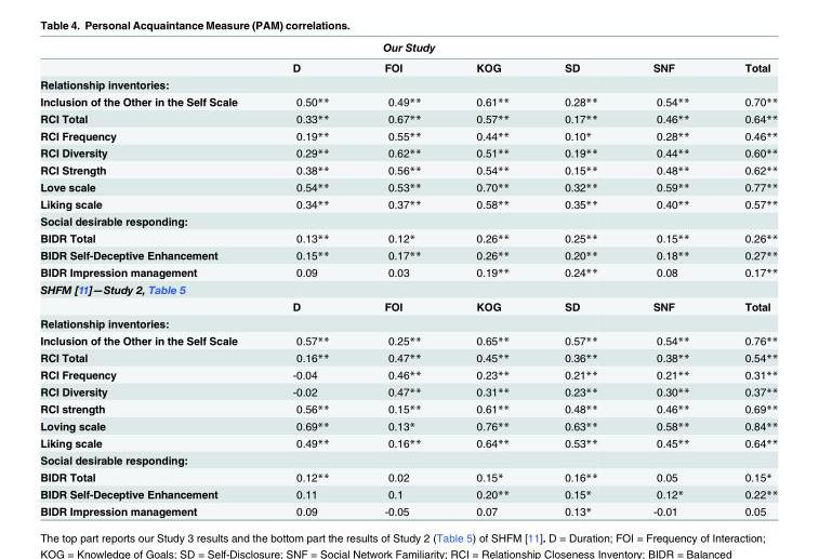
<table><thead><tr><td colspan="7">Our Study</td></tr><tr><td></td><td>D</td><td>FOI</td><td>KOG</td><td>SD</td><td>SNF</td><td>Total</td></tr></thead><tbody><tr><td colspan="7">Relationship inventories:</td></tr><tr><td>Inclusion of the Other in the Self Scale</td><td>0.50**</td><td>0.49**</td><td>0.61**</td><td>0.28**</td><td>0.54**</td><td>0.70**</td></tr><tr><td>RCI Total</td><td>0.33**</td><td>0.67**</td><td>0.57**</td><td>0.17**</td><td>0.46**</td><td>0.64**</td></tr><tr><td>RCI Frequency</td><td>0.19**</td><td>0.55**</td><td>0.44**</td><td>0.10*</td><td>0.28**</td><td>0.46**</td></tr><tr><td>RCI Diversity</td><td>0.29**</td><td>0.62**</td><td>0.51**</td><td>0.19**</td><td>0.44**</td><td>0.60**</td></tr><tr><td>RCI Strength</td><td>0.38**</td><td>0.56**</td><td>0.54**</td><td>0.15**</td><td>0.48**</td><td>0.62**</td></tr><tr><td>Love scale</td><td>0.54**</td><td>0.53**</td><td>0.70**</td><td>0.32**</td><td>0.59**</td><td>0.77**</td></tr><tr><td>Liking scale</td><td>0.34**</td><td>0.37**</td><td>0.58**</td><td>0.35**</td><td>0.40**</td><td>0.57**</td></tr><tr><td colspan="7">Social desirable responding:</td></tr><tr><td>BIDR Total</td><td>0.13**</td><td>0.12*</td><td>0.26**</td><td>0.25**</td><td>0.15**</td><td>0.26**</td></tr><tr><td>BIDR Self-Deceptive Enhancement</td><td>0.15**</td><td>0.17**</td><td>0.26**</td><td>0.20**</td><td>0.18**</td><td>0.27**</td></tr><tr><td>BIDR Impression management</td><td>0.09</td><td>0.03</td><td>0.19**</td><td>0.24**</td><td>0.08</td><td>0.17**</td></tr><tr><td colspan="7">SHFM [11]—Study 2, Table 5</td></tr><tr><td></td><td>D</td><td>FOI</td><td>KOG</td><td>SD</td><td>SNF</td><td>Total</td></tr><tr><td colspan="7">Relationship inventories:</td></tr><tr><td>Inclusion of the Other in the Self Scale</td><td>0.57**</td><td>0.25**</td><td>0.65**</td><td>0.57**</td><td>0.54**</td><td>0.76**</td></tr><tr><td>RCI Total</td><td>0.16**</td><td>0.47**</td><td>0.45**</td><td>0.36**</td><td>0.38**</td><td>0.54**</td></tr><tr><td>RCI Frequency</td><td>-0.04</td><td>0.46**</td><td>0.23**</td><td>0.21**</td><td>0.21**</td><td>0.31**</td></tr><tr><td>RCI Diversity</td><td>-0.02</td><td>0.47**</td><td>0.31**</td><td>0.23**</td><td>0.30**</td><td>0.37**</td></tr><tr><td>RCI strength</td><td>0.56**</td><td>0.15**</td><td>0.61**</td><td>0.48**</td><td>0.46**</td><td>0.69**</td></tr><tr><td>Loving scale</td><td>0.69**</td><td>0.13*</td><td>0.76**</td><td>0.63**</td><td>0.58**</td><td>0.84**</td></tr><tr><td>Liking scale</td><td>0.49**</td><td>0.16**</td><td>0.64**</td><td>0.53**</td><td>0.45**</td><td>0.64**</td></tr><tr><td colspan="7">Social desirable responding:</td></tr><tr><td>BIDR Total</td><td>0.12**</td><td>0.02</td><td>0.15*</td><td>0.16**</td><td>0.05</td><td>0.15*</td></tr><tr><td>BIDR Self-Deceptive Enhancement</td><td>0.11</td><td>0.1</td><td>0.20**</td><td>0.15*</td><td>0.12*</td><td>0.22**</td></tr><tr><td>BIDR Impression management</td><td>0.09</td><td>-0.05</td><td>0.07</td><td>0.13*</td><td>-0.01</td><td>0.05</td></tr></tbody></table>